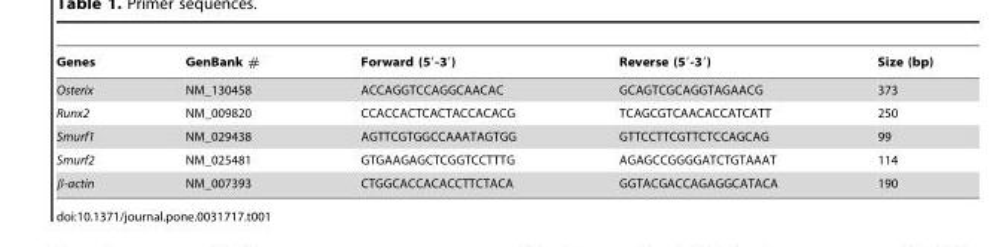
<table><thead><tr><td>Genes</td><td>GenBank #</td><td>Forward (5′-3′)</td><td>Reverse (5′-3′)</td><td>Size (bp)</td></tr></thead><tbody><tr><td>Osterix</td><td>NM_130458</td><td>ACCAGGTCCAGGCAACAC</td><td>GCAGTCGCAGGTAGAACG</td><td>373</td></tr><tr><td>Runx2</td><td>NM_009820</td><td>CCACCACTCACTACCACACG</td><td>TCAGCGTCAACACCATCATT</td><td>250</td></tr><tr><td>Smurf1</td><td>NM_029438</td><td>AGTTCGTGGCCAAATAGTGG</td><td>GTTCCTTCGTTCTCCAGCAG</td><td>99</td></tr><tr><td>Smurf2</td><td>NM_025481</td><td>GTGAAGAGCTCGGTCCTTTG</td><td>AGAGCCGGGGATCTGTAAAT</td><td>114</td></tr><tr><td>β-actin</td><td>NM_007393</td><td>CTGGCACCACACCTTCTACA</td><td>GGTACGACCAGAGGCATACA</td><td>190</td></tr></tbody></table>